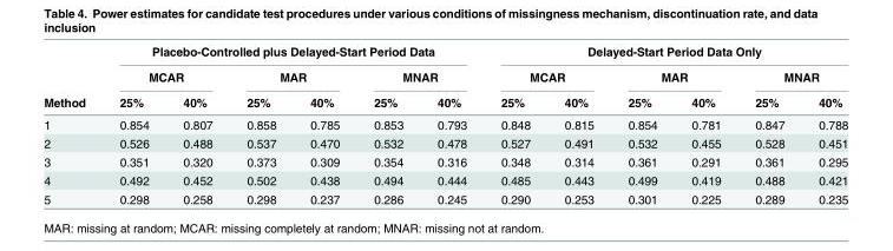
<table><thead><tr><td rowspan="3">Method</td><td colspan="6">Placebo-Controlled plus Delayed-Start Period Data</td><td colspan="6">Delayed-Start Period Data Only</td></tr><tr><td colspan="2">MCAR</td><td colspan="2">MAR</td><td colspan="2">MNAR</td><td colspan="2">MCAR</td><td colspan="2">MAR</td><td colspan="2">MNAR</td></tr><tr><td>25%</td><td>40%</td><td>25%</td><td>40%</td><td>25%</td><td>40%</td><td>25%</td><td>40%</td><td>25%</td><td>40%</td><td>25%</td><td>40%</td></tr></thead><tbody><tr><td>1</td><td>0.854</td><td>0.807</td><td>0.858</td><td>0.785</td><td>0.853</td><td>0.793</td><td>0.848</td><td>0.815</td><td>0.854</td><td>0.781</td><td>0.847</td><td>0.788</td></tr><tr><td>2</td><td>0.526</td><td>0.488</td><td>0.537</td><td>0.470</td><td>0.532</td><td>0.478</td><td>0.527</td><td>0.491</td><td>0.532</td><td>0.455</td><td>0.528</td><td>0.451</td></tr><tr><td>3</td><td>0.351</td><td>0.320</td><td>0.373</td><td>0.309</td><td>0.354</td><td>0.316</td><td>0.348</td><td>0.314</td><td>0.361</td><td>0.291</td><td>0.361</td><td>0.295</td></tr><tr><td>4</td><td>0.492</td><td>0.452</td><td>0.502</td><td>0.438</td><td>0.494</td><td>0.444</td><td>0.485</td><td>0.443</td><td>0.499</td><td>0.419</td><td>0.488</td><td>0.421</td></tr><tr><td>5</td><td>0.298</td><td>0.258</td><td>0.298</td><td>0.237</td><td>0.286</td><td>0.245</td><td>0.290</td><td>0.253</td><td>0.301</td><td>0.225</td><td>0.289</td><td>0.235</td></tr></tbody></table>